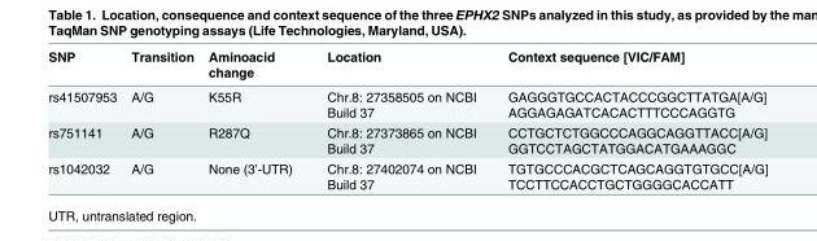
<table><thead><tr><td>SNP</td><td>Transition</td><td>Aminoacid change</td><td>Location</td><td>Context sequence [VIC/FAM]</td></tr></thead><tbody><tr><td>rs41507953</td><td>A/G</td><td>K55R</td><td>Chr.8: 27358505 on NCBI Build 37</td><td>GAGGGTGCCACTACCCGGCTTATGA[A/G] AGGAGAGATCACACTTTCCCAGGTG</td></tr><tr><td>rs751141</td><td>A/G</td><td>R287Q</td><td>Chr.8: 27373865 on NCBI Build 37</td><td>CCTGCTCTGGCCCAGGCAGGTTACC[A/G] GGTCCTAGCTATGGACATGAAAGGC</td></tr><tr><td>rs1042032</td><td>A/G</td><td>None (3’-UTR)</td><td>Chr.8: 27402074 on NCBI Build 37</td><td>TGTGCCCACGCTCAGCAGGTGTGCC[A/G] TCCTTCCACCTGCTGGGGCACCATT</td></tr></tbody></table>